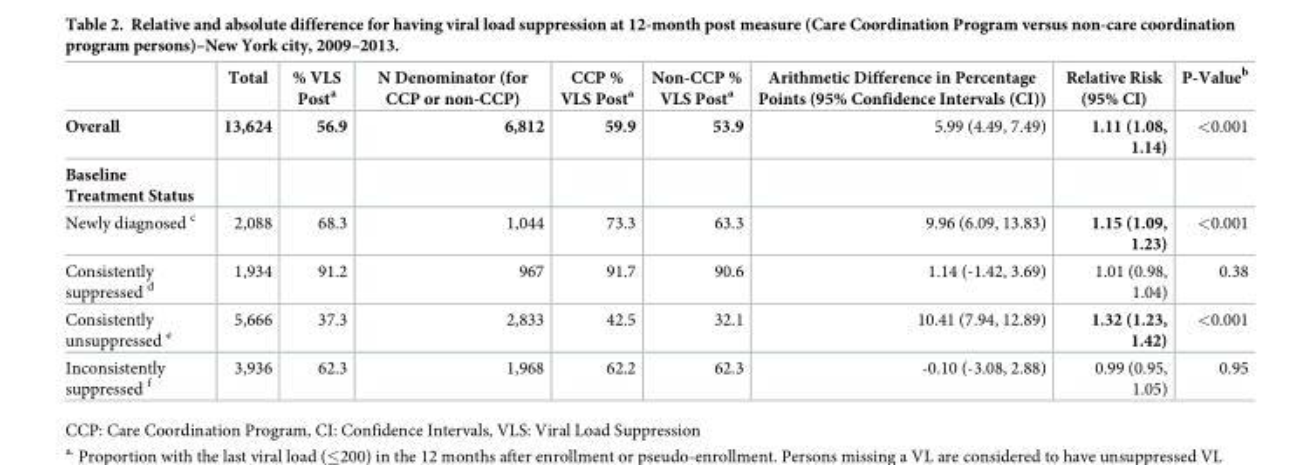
<table><thead><tr><td></td><td>Total</td><td>% VLS Post<sup>a</sup></td><td>N Denominator (for CCP or non-CCP)</td><td>CCP % VLS Post<sup>a</sup></td><td>Non-CCP % VLS Post<sup>a</sup></td><td>Arithmetic Difference in Percentage Points (95% Confidence Intervals (CI))</td><td>Relative Risk (95% CI)</td><td>P-Value<sup>b</sup></td></tr></thead><tbody><tr><td>Overall</td><td>13,624</td><td>56.9</td><td>6,812</td><td>59.9</td><td>53.9</td><td>5.99 (4.49, 7.49)</td><td>1.11 (1.08, 1.14)</td><td>&lt;0.001</td></tr><tr><td colspan="9">Baseline Treatment Status</td></tr><tr><td>Newly diagnosed <sup>c</sup></td><td>2,088</td><td>68.3</td><td>1,044</td><td>73.3</td><td>63.3</td><td>9.96 (6.09, 13.83)</td><td>1.15 (1.09, 1.23)</td><td>&lt;0.001</td></tr><tr><td>Consistently suppressed <sup>d</sup></td><td>1,934</td><td>91.2</td><td>967</td><td>91.7</td><td>90.6</td><td>1.14 (-1.42, 3.69)</td><td>1.01 (0.98, 1.04)</td><td>0.38</td></tr><tr><td>Consistently unsuppressed <sup>e</sup></td><td>5,666</td><td>37.3</td><td>2,833</td><td>42.5</td><td>32.1</td><td>10.41 (7.94, 12.89)</td><td>1.32 (1.23, 1.42)</td><td>&lt;0.001</td></tr><tr><td>Inconsistently suppressed <sup>f</sup></td><td>3,936</td><td>62.3</td><td>1,968</td><td>62.2</td><td>62.3</td><td>-0.10 (-3.08, 2.88)</td><td>0.99 (0.95, 1.05)</td><td>0.95</td></tr></tbody></table>